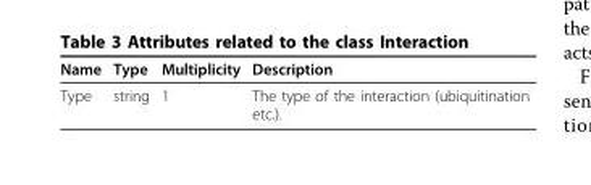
<table><thead><tr><td>Name</td><td>Type</td><td>Multiplicity</td><td>Description</td></tr></thead><tbody><tr><td>Type</td><td>string</td><td>1</td><td>The type of the interaction (ubiquitination etc.).</td></tr></tbody></table>